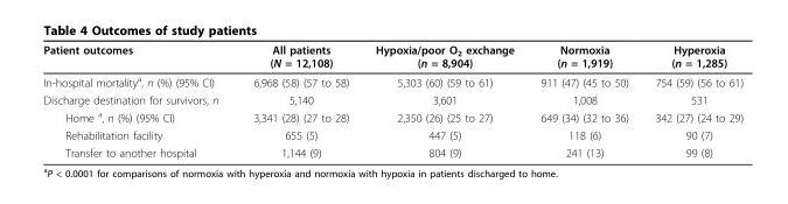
<table><thead><tr><td>Patient outcomes</td><td>All patients (N = 12,108)</td><td>Hypoxia/poor O<sub>2</sub> exchange (n = 8,904)</td><td>Normoxia (n = 1,919)</td><td>Hyperoxia (n = 1,285)</td></tr></thead><tbody><tr><td>In-hospital mortality<sup>a</sup>, n (%) (95% CI)</td><td>6,968 (58) (57 to 58)</td><td>5,303 (60) (59 to 61)</td><td>911 (47) (45 to 50)</td><td>754 (59) (56 to 61)</td></tr><tr><td>Discharge destination for survivors, n</td><td>5,140</td><td>3,601</td><td>1,008</td><td>531</td></tr><tr><td>Home <sup>a</sup>, n (%) (95% CI)</td><td>3,341 (28) (27 to 28)</td><td>2,350 (26) (25 to 27)</td><td>649 (34) (32 to 36)</td><td>342 (27) (24 to 29)</td></tr><tr><td>Rehabilitation facility</td><td>655 (5)</td><td>447 (5)</td><td>118 (6)</td><td>90 (7)</td></tr><tr><td>Transfer to another hospital</td><td>1,144 (9)</td><td>804 (9)</td><td>241 (13)</td><td>99 (8)</td></tr></tbody></table>